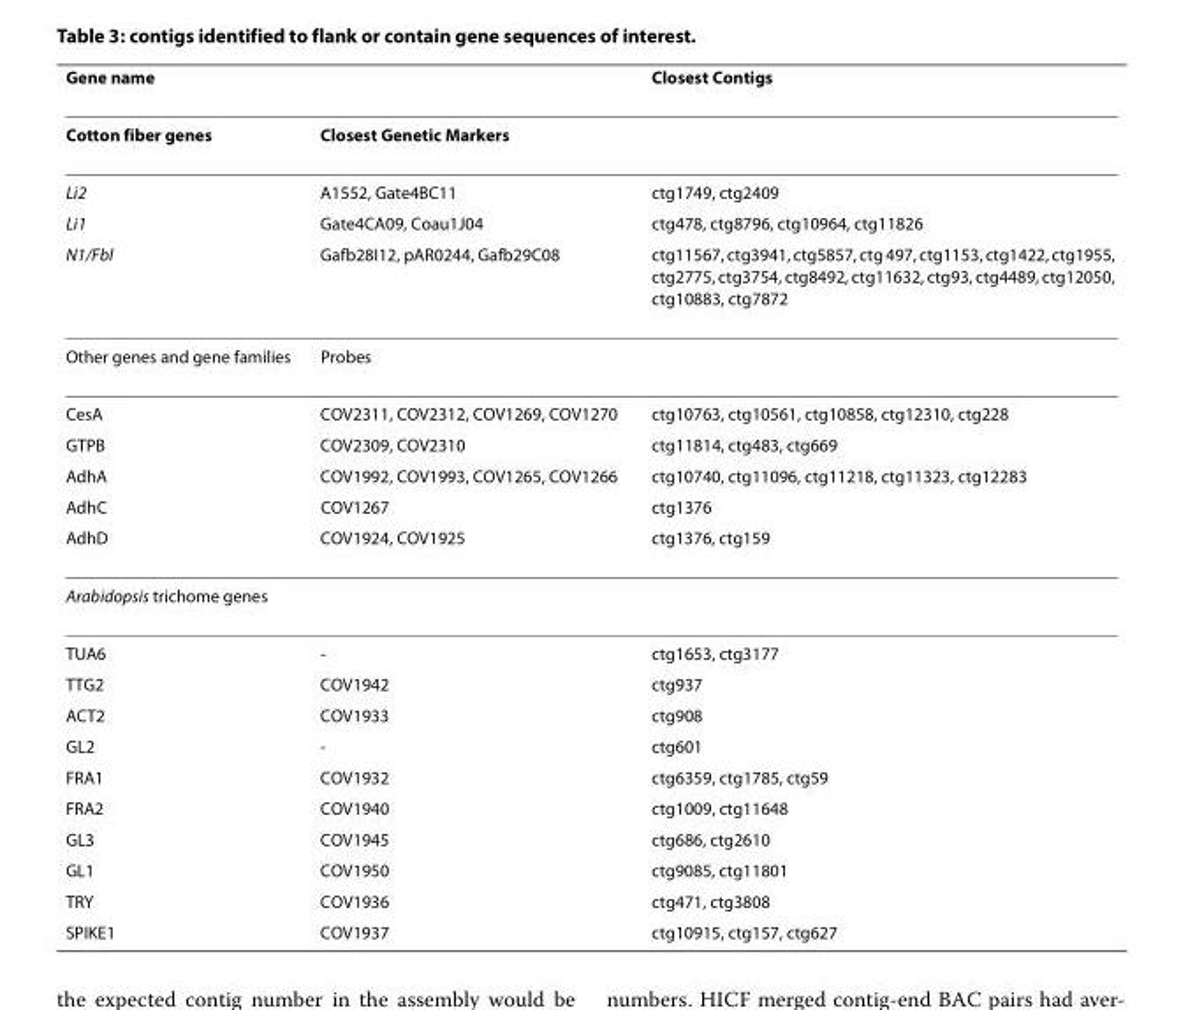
<table><thead><tr><td>Gene name</td><td></td><td>Closest Contigs</td></tr></thead><tbody><tr><td>Cotton fiber genes</td><td>Closest Genetic Markers</td><td></td></tr><tr><td>Li2</td><td>A1552, Gate4BC11</td><td>ctg1749, ctg2409</td></tr><tr><td>Li1</td><td>Gate4CA09, Coau1J04</td><td>ctg478, ctg8796, ctg10964, ctg11826</td></tr><tr><td>N1/Fbl</td><td>Gafb28I12, pAR0244, Gafb29C08</td><td>ctg11567, ctg3941, ctg5857, ctg 497, ctg1153, ctg1422, ctg1955, ctg2775, ctg3754, ctg8492, ctg11632, ctg93, ctg4489, ctg12050, ctg10883, ctg7872</td></tr><tr><td>Other genes and gene families</td><td>Probes</td><td></td></tr><tr><td>CesA</td><td>COV2311, COV2312, COV1269, COV1270</td><td>ctg10763, ctg10561, ctg10858, ctg12310, ctg228</td></tr><tr><td>GTPB</td><td>COV2309, COV2310</td><td>ctg11814, ctg483, ctg669</td></tr><tr><td>AdhA</td><td>COV1992, COV1993, COV1265, COV1266</td><td>ctg10740, ctg11096, ctg11218, ctg11323, ctg12283</td></tr><tr><td>AdhC</td><td>COV1267</td><td>ctg1376</td></tr><tr><td>AdhD</td><td>COV1924, COV1925</td><td>ctg1376, ctg159</td></tr><tr><td colspan="3">Arabidopsis trichome genes</td></tr><tr><td>TUA6</td><td>-</td><td>ctg1653, ctg3177</td></tr><tr><td>TTG2</td><td>COV1942</td><td>ctg937</td></tr><tr><td>ACT2</td><td>COV1933</td><td>ctg908</td></tr><tr><td>GL2</td><td>-</td><td>ctg601</td></tr><tr><td>FRA1</td><td>COV1932</td><td>ctg6359, ctg1785, ctg59</td></tr><tr><td>FRA2</td><td>COV1940</td><td>ctg1009, ctg11648</td></tr><tr><td>GL3</td><td>COV1945</td><td>ctg686, ctg2610</td></tr><tr><td>GL1</td><td>COV1950</td><td>ctg9085, ctg11801</td></tr><tr><td>TRY</td><td>COV1936</td><td>ctg471, ctg3808</td></tr><tr><td>SPIKE1</td><td>COV1937</td><td>ctg10915, ctg157, ctg627</td></tr></tbody></table>